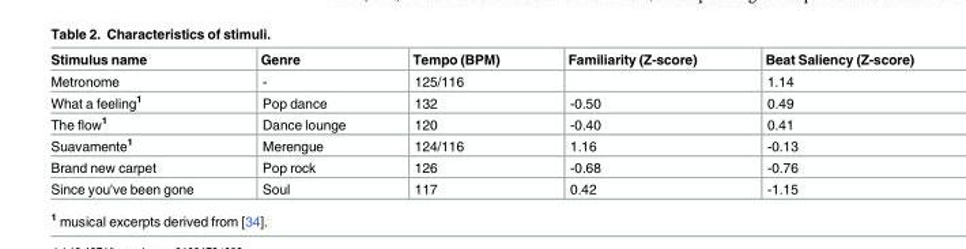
<table><thead><tr><td>Stimulus name</td><td>Genre</td><td>Tempo (BPM)</td><td>Familiarity (Z-score)</td><td>Beat Saliency (Z-score)</td></tr></thead><tbody><tr><td>Metronome</td><td>-</td><td>125/116</td><td></td><td>1.14</td></tr><tr><td>What a feeling<sup>1</sup></td><td>Pop dance</td><td>132</td><td>-0.50</td><td>0.49</td></tr><tr><td>The flow<sup>1</sup></td><td>Dance lounge</td><td>120</td><td>-0.40</td><td>0.41</td></tr><tr><td>Suavamente<sup>1</sup></td><td>Merengue</td><td>124/116</td><td>1.16</td><td>-0.13</td></tr><tr><td>Brand new carpet</td><td>Pop rock</td><td>126</td><td>-0.68</td><td>-0.76</td></tr><tr><td>Since you&#x27;ve been gone</td><td>Soul</td><td>117</td><td>0.42</td><td>-1.15</td></tr></tbody></table>